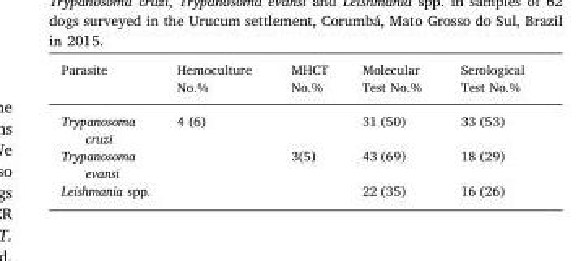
<table><thead><tr><td>Parasite</td><td>Hemoculture No.%</td><td>MHCT No.%</td><td>Molecular Test No.%</td><td>Serological Test No.%</td></tr></thead><tbody><tr><td>Trypanosoma cruzi</td><td>4 (6)</td><td></td><td>31 (50)</td><td>33 (53)</td></tr><tr><td>Trypanosoma evansi</td><td></td><td>3(5)</td><td>43 (69)</td><td>18 (29)</td></tr><tr><td>Leishmania spp.</td><td></td><td></td><td>22 (35)</td><td>16 (26)</td></tr></tbody></table>